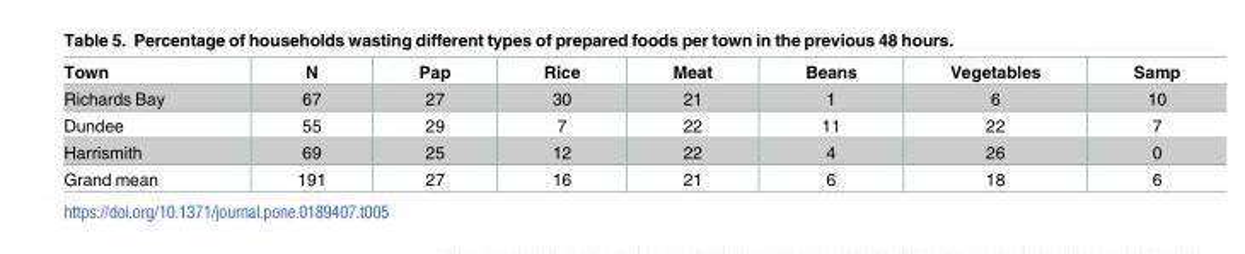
<table><thead><tr><td>Town</td><td>N</td><td>Pap</td><td>Rice</td><td>Meat</td><td>Beans</td><td>Vegetables</td><td>Samp</td></tr></thead><tbody><tr><td>Richards Bay</td><td>67</td><td>27</td><td>30</td><td>21</td><td>1</td><td>6</td><td>10</td></tr><tr><td>Dundee</td><td>55</td><td>29</td><td>7</td><td>22</td><td>11</td><td>22</td><td>7</td></tr><tr><td>Harrismith</td><td>69</td><td>25</td><td>12</td><td>22</td><td>4</td><td>26</td><td>0</td></tr><tr><td>Grand mean</td><td>191</td><td>27</td><td>16</td><td>21</td><td>6</td><td>18</td><td>6</td></tr></tbody></table>